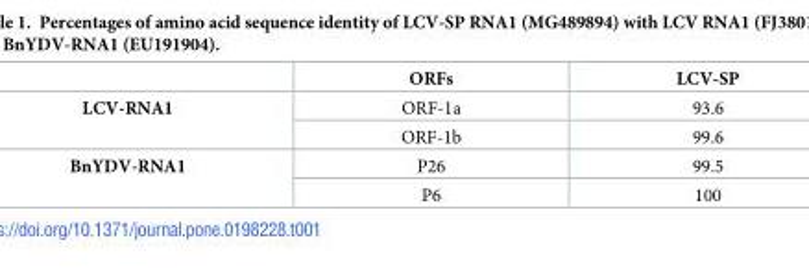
<table><thead><tr><td></td><td>ORFs</td><td>LCV-SP</td></tr></thead><tbody><tr><td rowspan="2">LCV-RNA1</td><td>ORF-1a</td><td>93.6</td></tr><tr><td>ORF-1b</td><td>99.6</td></tr><tr><td rowspan="2">BnYDV-RNA1</td><td>P26</td><td>99.5</td></tr><tr><td>P6</td><td>100</td></tr></tbody></table>